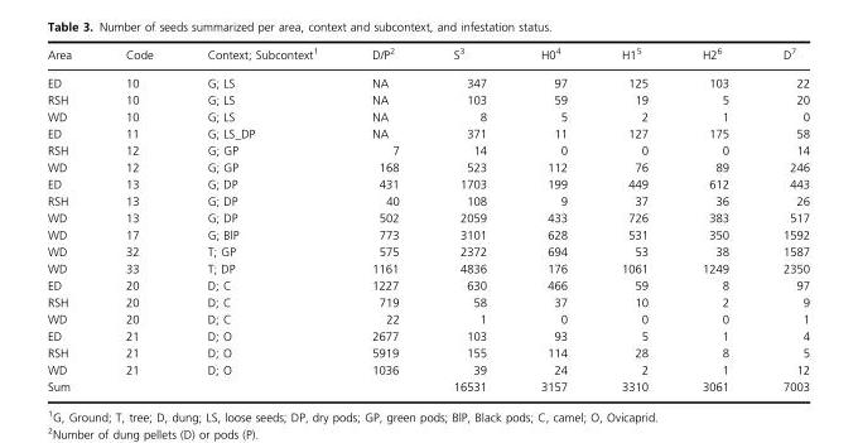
<table><thead><tr><td>Area</td><td>Code</td><td>Context; Subcontext1</td><td>D/P2</td><td>S3</td><td>H04</td><td>H15</td><td>H26</td><td>D7</td></tr></thead><tbody><tr><td>ED</td><td>10</td><td>G; LS</td><td>NA</td><td>347</td><td>97</td><td>125</td><td>103</td><td>22</td></tr><tr><td>RSH</td><td>10</td><td>G; LS</td><td>NA</td><td>103</td><td>59</td><td>19</td><td>5</td><td>20</td></tr><tr><td>WD</td><td>10</td><td>G; LS</td><td>NA</td><td>8</td><td>5</td><td>2</td><td>1</td><td>0</td></tr><tr><td>ED</td><td>11</td><td>G; LS_DP</td><td>NA</td><td>371</td><td>11</td><td>127</td><td>175</td><td>58</td></tr><tr><td>RSH</td><td>12</td><td>G; GP</td><td>7</td><td>14</td><td>0</td><td>0</td><td>0</td><td>14</td></tr><tr><td>WD</td><td>12</td><td>G; GP</td><td>168</td><td>523</td><td>112</td><td>76</td><td>89</td><td>246</td></tr><tr><td>ED</td><td>13</td><td>G; DP</td><td>431</td><td>1703</td><td>199</td><td>449</td><td>612</td><td>443</td></tr><tr><td>RSH</td><td>13</td><td>G; DP</td><td>40</td><td>108</td><td>9</td><td>37</td><td>36</td><td>26</td></tr><tr><td>WD</td><td>13</td><td>G; DP</td><td>502</td><td>2059</td><td>433</td><td>726</td><td>383</td><td>517</td></tr><tr><td>WD</td><td>17</td><td>G; BlP</td><td>773</td><td>3101</td><td>628</td><td>531</td><td>350</td><td>1592</td></tr><tr><td>WD</td><td>32</td><td>T; GP</td><td>575</td><td>2372</td><td>694</td><td>53</td><td>38</td><td>1587</td></tr><tr><td>WD</td><td>33</td><td>T; DP</td><td>1161</td><td>4836</td><td>176</td><td>1061</td><td>1249</td><td>2350</td></tr><tr><td>ED</td><td>20</td><td>D; C</td><td>1227</td><td>630</td><td>466</td><td>59</td><td>8</td><td>97</td></tr><tr><td>RSH</td><td>20</td><td>D; C</td><td>719</td><td>58</td><td>37</td><td>10</td><td>2</td><td>9</td></tr><tr><td>WD</td><td>20</td><td>D; C</td><td>22</td><td>1</td><td>0</td><td>0</td><td>0</td><td>1</td></tr><tr><td>ED</td><td>21</td><td>D; O</td><td>2677</td><td>103</td><td>93</td><td>5</td><td>1</td><td>4</td></tr><tr><td>RSH</td><td>21</td><td>D; O</td><td>5919</td><td>155</td><td>114</td><td>28</td><td>8</td><td>5</td></tr><tr><td>WD</td><td>21</td><td>D; O</td><td>1036</td><td>39</td><td>24</td><td>2</td><td>1</td><td>12</td></tr><tr><td>Sum</td><td></td><td></td><td></td><td>16531</td><td>3157</td><td>3310</td><td>3061</td><td>7003</td></tr></tbody></table>